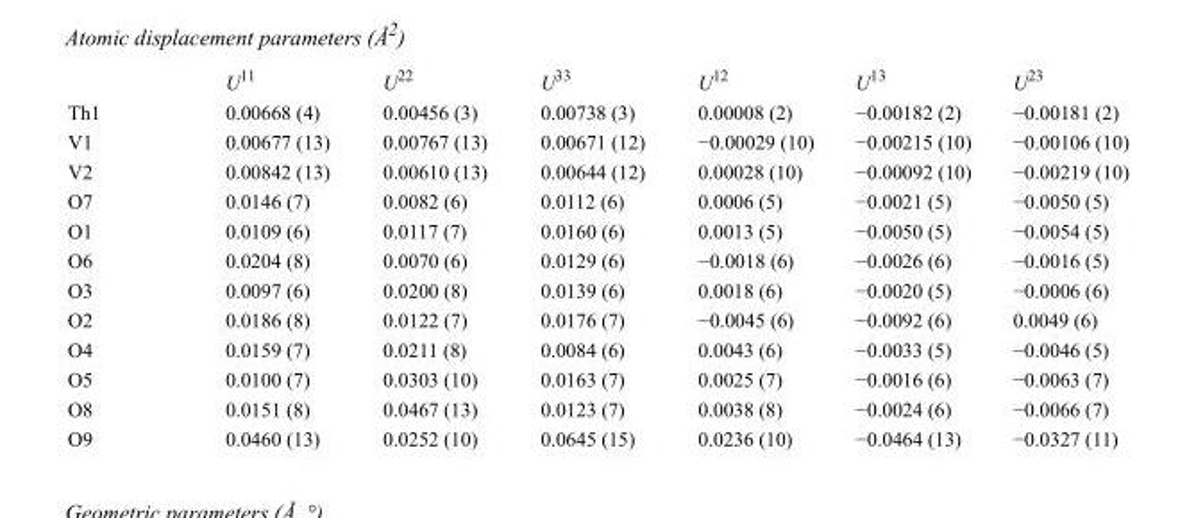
<table><thead><tr><td></td><td>U<sup>11</sup></td><td>U<sup>22</sup></td><td>U<sup>33</sup></td><td>U<sup>12</sup></td><td>U<sup>13</sup></td><td>U<sup>23</sup></td></tr></thead><tbody><tr><td>Th1</td><td>0.00668 (4)</td><td>0.00456 (3)</td><td>0.00738 (3)</td><td>0.00008 (2)</td><td>−0.00182 (2)</td><td>−0.00181 (2)</td></tr><tr><td>V1</td><td>0.00677 (13)</td><td>0.00767 (13)</td><td>0.00671 (12)</td><td>−0.00029 (10)</td><td>−0.00215 (10)</td><td>−0.00106 (10)</td></tr><tr><td>V2</td><td>0.00842 (13)</td><td>0.00610 (13)</td><td>0.00644 (12)</td><td>0.00028 (10)</td><td>−0.00092 (10)</td><td>−0.00219 (10)</td></tr><tr><td>O7</td><td>0.0146 (7)</td><td>0.0082 (6)</td><td>0.0112 (6)</td><td>0.0006 (5)</td><td>−0.0021 (5)</td><td>−0.0050 (5)</td></tr><tr><td>O1</td><td>0.0109 (6)</td><td>0.0117 (7)</td><td>0.0160 (6)</td><td>0.0013 (5)</td><td>−0.0050 (5)</td><td>−0.0054 (5)</td></tr><tr><td>O6</td><td>0.0204 (8)</td><td>0.0070 (6)</td><td>0.0129 (6)</td><td>−0.0018 (6)</td><td>−0.0026 (6)</td><td>−0.0016 (5)</td></tr><tr><td>O3</td><td>0.0097 (6)</td><td>0.0200 (8)</td><td>0.0139 (6)</td><td>0.0018 (6)</td><td>−0.0020 (5)</td><td>−0.0006 (6)</td></tr><tr><td>O2</td><td>0.0186 (8)</td><td>0.0122 (7)</td><td>0.0176 (7)</td><td>−0.0045 (6)</td><td>−0.0092 (6)</td><td>0.0049 (6)</td></tr><tr><td>O4</td><td>0.0159 (7)</td><td>0.0211 (8)</td><td>0.0084 (6)</td><td>0.0043 (6)</td><td>−0.0033 (5)</td><td>−0.0046 (5)</td></tr><tr><td>O5</td><td>0.0100 (7)</td><td>0.0303 (10)</td><td>0.0163 (7)</td><td>0.0025 (7)</td><td>−0.0016 (6)</td><td>−0.0063 (7)</td></tr><tr><td>O8</td><td>0.0151 (8)</td><td>0.0467 (13)</td><td>0.0123 (7)</td><td>0.0038 (8)</td><td>−0.0024 (6)</td><td>−0.0066 (7)</td></tr><tr><td>O9</td><td>0.0460 (13)</td><td>0.0252 (10)</td><td>0.0645 (15)</td><td>0.0236 (10)</td><td>−0.0464 (13)</td><td>−0.0327 (11)</td></tr></tbody></table>